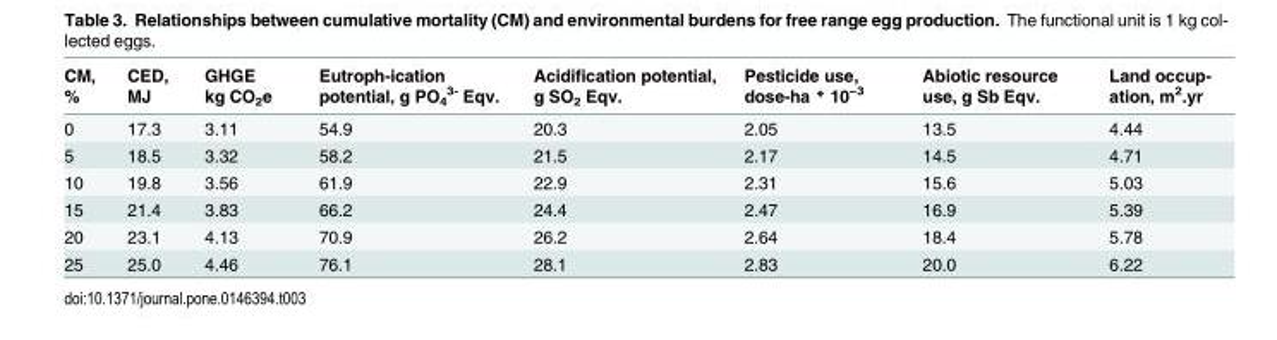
<table><thead><tr><td>CM, %</td><td>CED, MJ</td><td>GHGE kg CO<sub>2</sub>e</td><td>Eutroph-ication potential, g PO<sub>4</sub> <sup>3-</sup> Eqv.</td><td>Acidification potential, g SO<sub>2</sub> Eqv.</td><td>Pesticide use, dose-ha * 10<sup>−3</sup></td><td>Abiotic resource use, g Sb Eqv.</td><td>Land occup- ation, m<sup>2</sup>.yr</td></tr></thead><tbody><tr><td>0</td><td>17.3</td><td>3.11</td><td>54.9</td><td>20.3</td><td>2.05</td><td>13.5</td><td>4.44</td></tr><tr><td>5</td><td>18.5</td><td>3.32</td><td>58.2</td><td>21.5</td><td>2.17</td><td>14.5</td><td>4.71</td></tr><tr><td>10</td><td>19.8</td><td>3.56</td><td>61.9</td><td>22.9</td><td>2.31</td><td>15.6</td><td>5.03</td></tr><tr><td>15</td><td>21.4</td><td>3.83</td><td>66.2</td><td>24.4</td><td>2.47</td><td>16.9</td><td>5.39</td></tr><tr><td>20</td><td>23.1</td><td>4.13</td><td>70.9</td><td>26.2</td><td>2.64</td><td>18.4</td><td>5.78</td></tr><tr><td>25</td><td>25.0</td><td>4.46</td><td>76.1</td><td>28.1</td><td>2.83</td><td>20.0</td><td>6.22</td></tr></tbody></table>